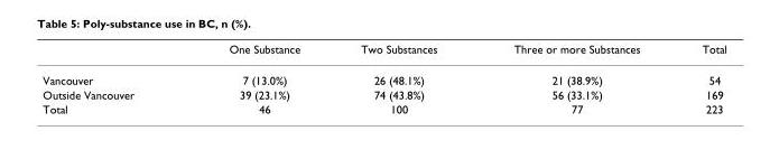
<table><thead><tr><td></td><td>One Substance</td><td>Two Substances</td><td>Three or more Substances</td><td>Total</td></tr></thead><tbody><tr><td>Vancouver</td><td>7 (13.0%)</td><td>26 (48.1%)</td><td>21 (38.9%)</td><td>54</td></tr><tr><td>Outside Vancouver</td><td>39 (23.1%)</td><td>74 (43.8%)</td><td>56 (33.1%)</td><td>169</td></tr><tr><td>Total</td><td>46</td><td>100</td><td>77</td><td>223</td></tr></tbody></table>